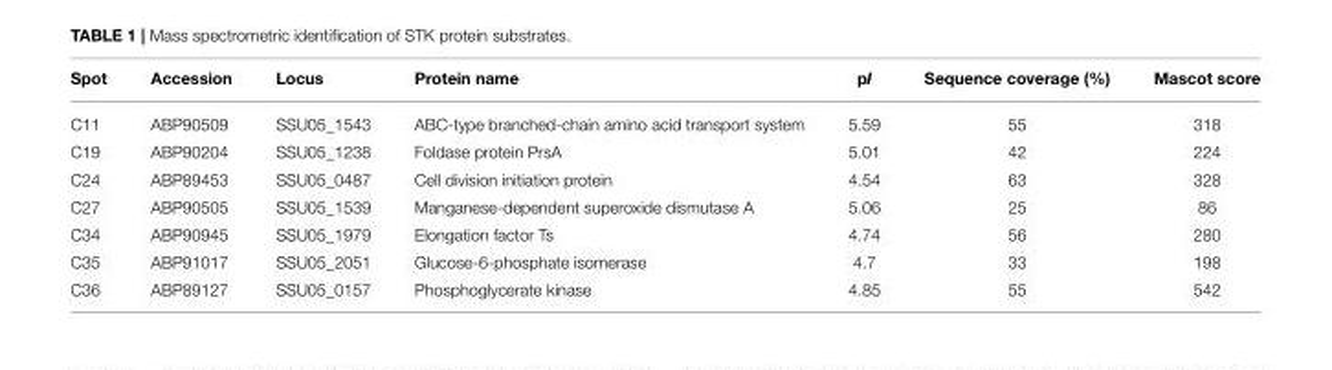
<table><thead><tr><td>Spot</td><td>Accession</td><td>Locus</td><td>Protein name</td><td>pI</td><td>Sequence coverage (%)</td><td>Mascot score</td></tr></thead><tbody><tr><td>C11</td><td>ABP90509</td><td>SSU05_1543</td><td>ABC-type branched-chain amino acid transport system</td><td>5.59</td><td>55</td><td>318</td></tr><tr><td>C19</td><td>ABP90204</td><td>SSU05_1238</td><td>Foldase protein PrsA</td><td>5.01</td><td>42</td><td>224</td></tr><tr><td>C24</td><td>ABP89453</td><td>SSU05_0487</td><td>Cell division initiation protein</td><td>4.54</td><td>63</td><td>328</td></tr><tr><td>C27</td><td>ABP90505</td><td>SSU05_1539</td><td>Manganese-dependent superoxide dismutase A</td><td>5.06</td><td>25</td><td>86</td></tr><tr><td>C34</td><td>ABP90945</td><td>SSU05_1979</td><td>Elongation factor Ts</td><td>4.74</td><td>56</td><td>280</td></tr><tr><td>C35</td><td>ABP91017</td><td>SSU05_2051</td><td>Glucose-6-phosphate isomerase</td><td>4.7</td><td>33</td><td>198</td></tr><tr><td>C36</td><td>ABP89127</td><td>SSU05_0157</td><td>Phosphoglycerate kinase</td><td>4.85</td><td>55</td><td>542</td></tr></tbody></table>